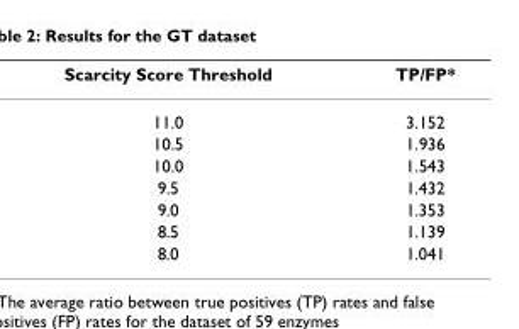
<table><thead><tr><td>Scarcity Score Threshold</td><td>TP/FP*</td></tr></thead><tbody><tr><td>11.0</td><td>3.152</td></tr><tr><td>10.5</td><td>1.936</td></tr><tr><td>10.0</td><td>1.543</td></tr><tr><td>9.5</td><td>1.432</td></tr><tr><td>9.0</td><td>1.353</td></tr><tr><td>8.5</td><td>1.139</td></tr><tr><td>8.0</td><td>1.041</td></tr></tbody></table>